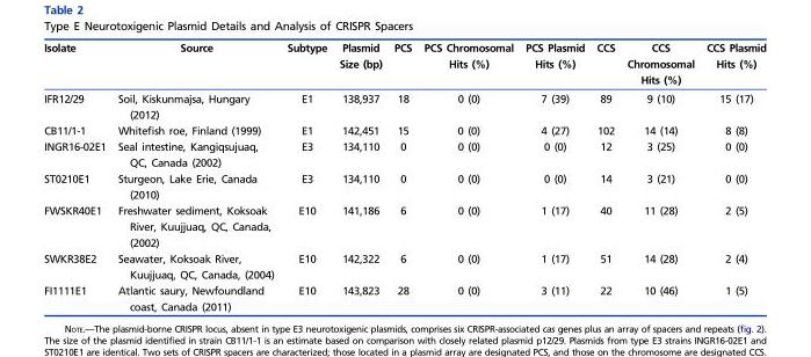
<table><thead><tr><td>Isolate</td><td>Source</td><td>Subtype</td><td>Plasmid Size (bp)</td><td>PCS</td><td>PCS Chromosomal Hits (%)</td><td>PCS Plasmid Hits (%)</td><td>CCS</td><td>CCS Chromosomal Hits (%)</td><td>CCS Plasmid Hits (%)</td></tr></thead><tbody><tr><td>IFR12/29</td><td>Soil, Kiskunmajsa, Hungary (2012)</td><td>E1</td><td>138,937</td><td>18</td><td>0 (0)</td><td>7 (39)</td><td>89</td><td>9 (10)</td><td>15 (17)</td></tr><tr><td>CB11/1-1</td><td>Whitefish roe, Finland (1999)</td><td>E1</td><td>142,451</td><td>15</td><td>0 (0)</td><td>4 (27)</td><td>102</td><td>14 (14)</td><td>8 (8)</td></tr><tr><td>INGR16-02E1</td><td>Seal intestine, Kangiqsujuaq, QC, Canada (2002)</td><td>E3</td><td>134,110</td><td>0</td><td>0 (0)</td><td>0 (0)</td><td>12</td><td>3 (25)</td><td>0 (0)</td></tr><tr><td>ST0210E1</td><td>Sturgeon, Lake Erie, Canada (2010)</td><td>E3</td><td>134,110</td><td>0</td><td>0 (0)</td><td>0 (0)</td><td>14</td><td>3 (21)</td><td>0 (0)</td></tr><tr><td>FWSKR40E1</td><td>Freshwater sediment, Koksoak River, Kuujjuaq, QC, Canada, (2002)</td><td>E10</td><td>141,186</td><td>6</td><td>0 (0)</td><td>1 (17)</td><td>40</td><td>11 (28)</td><td>2 (5)</td></tr><tr><td>SWKR38E2</td><td>Seawater, Koksoak River, Kuujjuaq, QC, Canada, (2004)</td><td>E10</td><td>142,322</td><td>6</td><td>0 (0)</td><td>1 (17)</td><td>51</td><td>14 (28)</td><td>2 (4)</td></tr><tr><td>FI1111E1</td><td>Atlantic saury, Newfoundland coast, Canada (2011)</td><td>E10</td><td>143,823</td><td>28</td><td>0 (0)</td><td>3 (11)</td><td>22</td><td>10 (46)</td><td>1 (5)</td></tr></tbody></table>